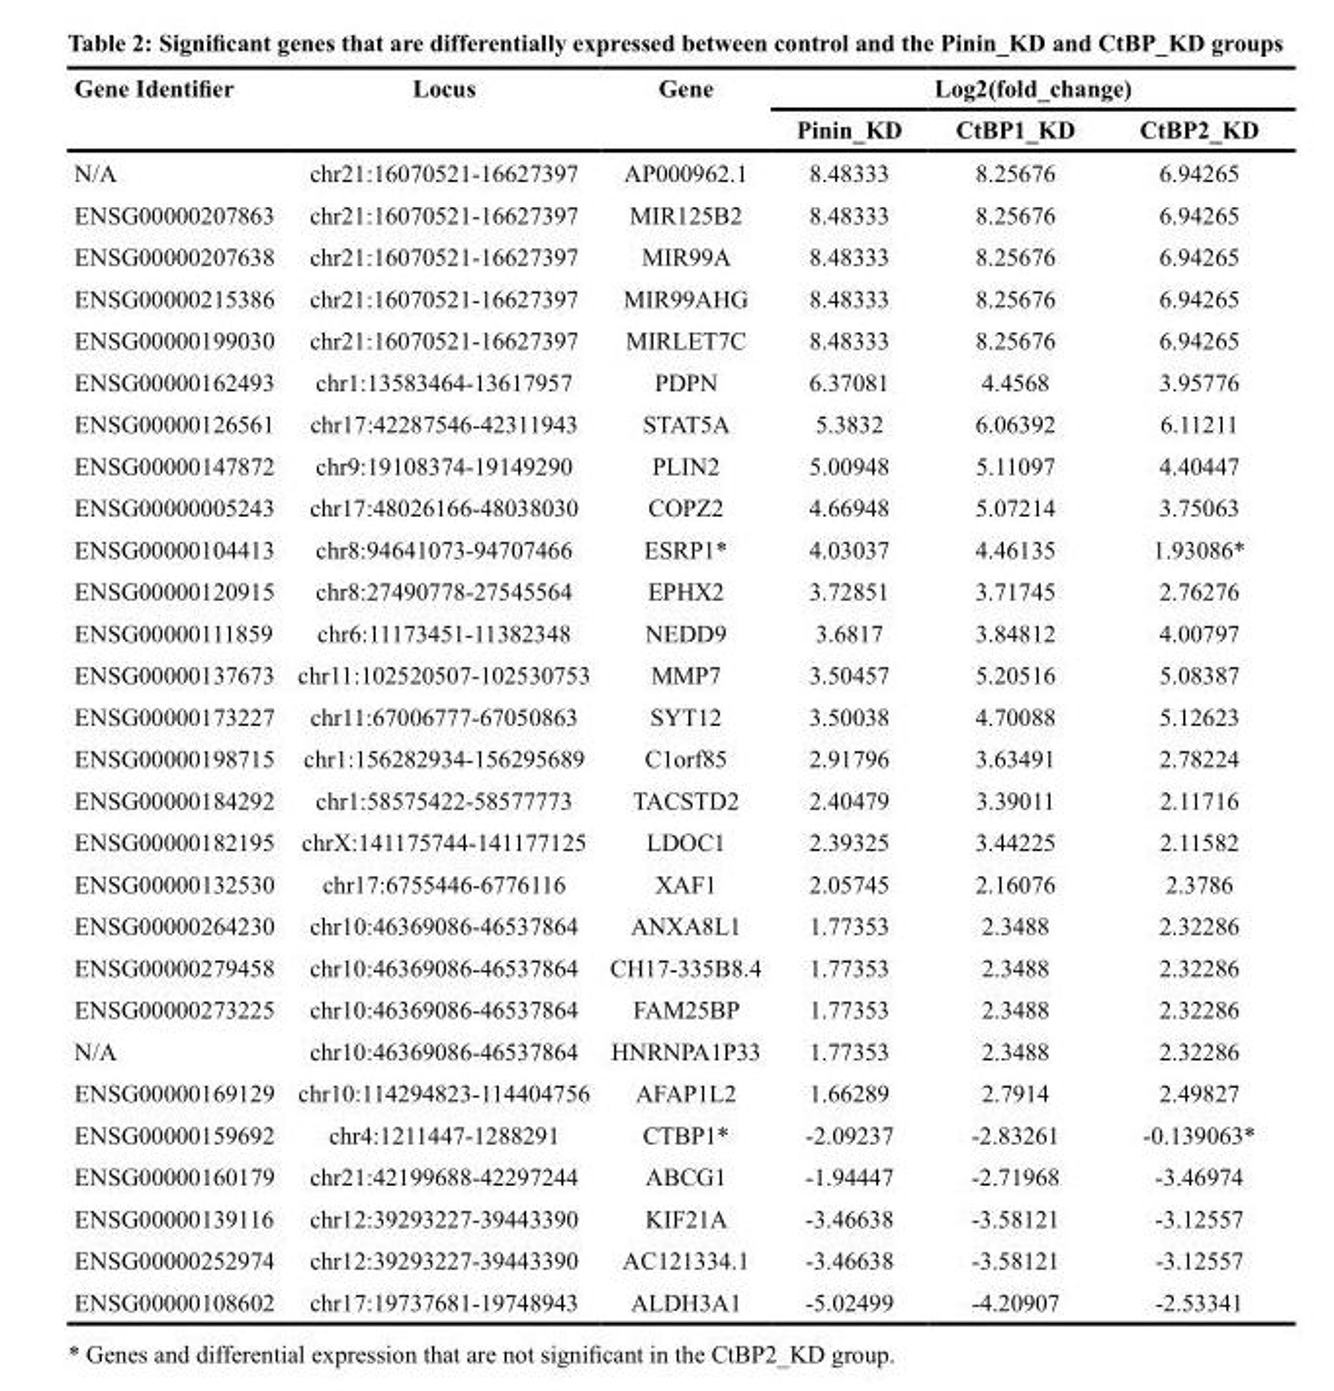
<table><thead><tr><td rowspan="2">Gene Identifier</td><td rowspan="2">Locus</td><td rowspan="2">Gene</td><td colspan="3">Log2(fold_change)</td></tr><tr><td>Pinin_KD</td><td>CtBP1_KD</td><td>CtBP2_KD</td></tr></thead><tbody><tr><td>N/A</td><td>chr21:16070521-16627397</td><td>AP000962.1</td><td>8.48333</td><td>8.25676</td><td>6.94265</td></tr><tr><td>ENSG00000207863</td><td>chr21:16070521-16627397</td><td>MIR125B2</td><td>8.48333</td><td>8.25676</td><td>6.94265</td></tr><tr><td>ENSG00000207638</td><td>chr21:16070521-16627397</td><td>MIR99A</td><td>8.48333</td><td>8.25676</td><td>6.94265</td></tr><tr><td>ENSG00000215386</td><td>chr21:16070521-16627397</td><td>MIR99AHG</td><td>8.48333</td><td>8.25676</td><td>6.94265</td></tr><tr><td>ENSG00000199030</td><td>chr21:16070521-16627397</td><td>MIRLET7C</td><td>8.48333</td><td>8.25676</td><td>6.94265</td></tr><tr><td>ENSG00000162493</td><td>chr1:13583464-13617957</td><td>PDPN</td><td>6.37081</td><td>4.4568</td><td>3.95776</td></tr><tr><td>ENSG00000126561</td><td>chr17:42287546-42311943</td><td>STAT5A</td><td>5.3832</td><td>6.06392</td><td>6.11211</td></tr><tr><td>ENSG00000147872</td><td>chr9:19108374-19149290</td><td>PLIN2</td><td>5.00948</td><td>5.11097</td><td>4.40447</td></tr><tr><td>ENSG00000005243</td><td>chr17:48026166-48038030</td><td>COPZ2</td><td>4.66948</td><td>5.07214</td><td>3.75063</td></tr><tr><td>ENSG00000104413</td><td>chr8:94641073-94707466</td><td>ESRP1*</td><td>4.03037</td><td>4.46135</td><td>1.93086*</td></tr><tr><td>ENSG00000120915</td><td>chr8:27490778-27545564</td><td>EPHX2</td><td>3.72851</td><td>3.71745</td><td>2.76276</td></tr><tr><td>ENSG00000111859</td><td>chr6:11173451-11382348</td><td>NEDD9</td><td>3.6817</td><td>3.84812</td><td>4.00797</td></tr><tr><td>ENSG00000137673</td><td>chr11:102520507-102530753</td><td>MMP7</td><td>3.50457</td><td>5.20516</td><td>5.08387</td></tr><tr><td>ENSG00000173227</td><td>chr11:67006777-67050863</td><td>SYT12</td><td>3.50038</td><td>4.70088</td><td>5.12623</td></tr><tr><td>ENSG00000198715</td><td>chr1:156282934-156295689</td><td>C1orf85</td><td>2.91796</td><td>3.63491</td><td>2.78224</td></tr><tr><td>ENSG00000184292</td><td>chr1:58575422-58577773</td><td>TACSTD2</td><td>2.40479</td><td>3.39011</td><td>2.11716</td></tr><tr><td>ENSG00000182195</td><td>chrX:141175744-141177125</td><td>LDOC1</td><td>2.39325</td><td>3.44225</td><td>2.11582</td></tr><tr><td>ENSG00000132530</td><td>chr17:6755446-6776116</td><td>XAF1</td><td>2.05745</td><td>2.16076</td><td>2.3786</td></tr><tr><td>ENSG00000264230</td><td>chr10:46369086-46537864</td><td>ANXA8L1</td><td>1.77353</td><td>2.3488</td><td>2.32286</td></tr><tr><td>ENSG00000279458</td><td>chr10:46369086-46537864</td><td>CH17-335B8.4</td><td>1.77353</td><td>2.3488</td><td>2.32286</td></tr><tr><td>ENSG00000273225</td><td>chr10:46369086-46537864</td><td>FAM25BP</td><td>1.77353</td><td>2.3488</td><td>2.32286</td></tr><tr><td>N/A</td><td>chr10:46369086-46537864</td><td>HNRNPA1P33</td><td>1.77353</td><td>2.3488</td><td>2.32286</td></tr><tr><td>ENSG00000169129</td><td>chr10:114294823-114404756</td><td>AFAP1L2</td><td>1.66289</td><td>2.7914</td><td>2.49827</td></tr><tr><td>ENSG00000159692</td><td>chr4:1211447-1288291</td><td>CTBP1*</td><td>-2.09237</td><td>-2.83261</td><td>-0.139063*</td></tr><tr><td>ENSG00000160179</td><td>chr21:42199688-42297244</td><td>ABCG1</td><td>-1.94447</td><td>-2.71968</td><td>-3.46974</td></tr><tr><td>ENSG00000139116</td><td>chr12:39293227-39443390</td><td>KIF21A</td><td>-3.46638</td><td>-3.58121</td><td>-3.12557</td></tr><tr><td>ENSG00000252974</td><td>chr12:39293227-39443390</td><td>AC121334.1</td><td>-3.46638</td><td>-3.58121</td><td>-3.12557</td></tr><tr><td>ENSG00000108602</td><td>chr17:19737681-19748943</td><td>ALDH3A1</td><td>-5.02499</td><td>-4.20907</td><td>-2.53341</td></tr></tbody></table>